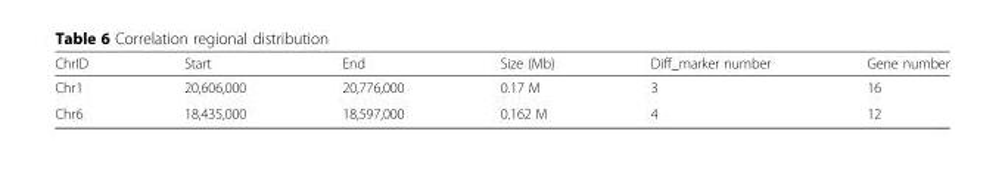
<table><thead><tr><td>ChrID</td><td>Start</td><td>End</td><td>Size (Mb)</td><td>Diff_marker number</td><td>Gene number</td></tr></thead><tbody><tr><td>Chr1</td><td>20,606,000</td><td>20,776,000</td><td>0.17 M</td><td>3</td><td>16</td></tr><tr><td>Chr6</td><td>18,435,000</td><td>18,597,000</td><td>0.162 M</td><td>4</td><td>12</td></tr></tbody></table>